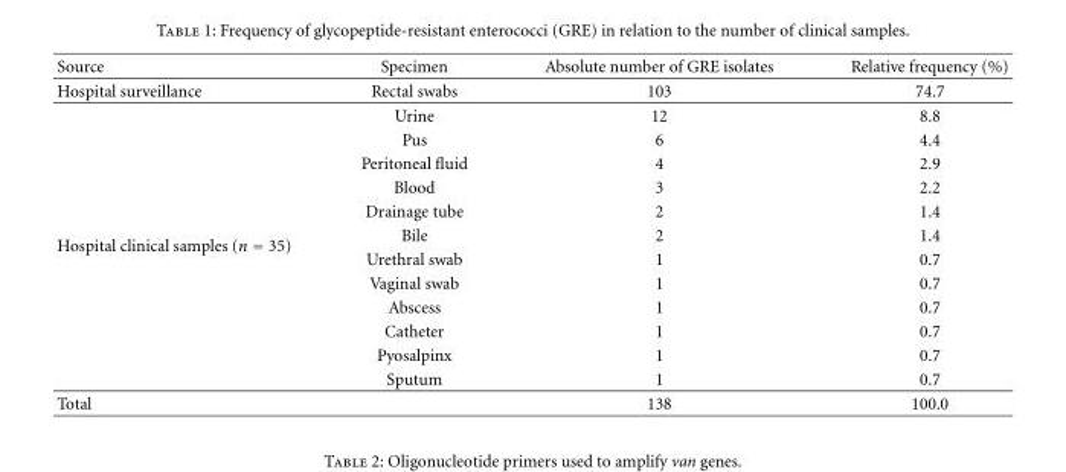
<table><thead><tr><td>Source</td><td>Specimen</td><td>Absolute number of GRE isolates</td><td>Relative frequency (%)</td></tr></thead><tbody><tr><td>Hospital surveillance</td><td>Rectal swabs</td><td>103</td><td>74.7</td></tr><tr><td rowspan="12">Hospital clinical samples (n = 35)</td><td>Urine</td><td>12</td><td>8.8</td></tr><tr><td>Pus</td><td>6</td><td>4.4</td></tr><tr><td>Peritoneal fluid</td><td>4</td><td>2.9</td></tr><tr><td>Blood</td><td>3</td><td>2.2</td></tr><tr><td>Drainage tube</td><td>2</td><td>1.4</td></tr><tr><td>Bile</td><td>2</td><td>1.4</td></tr><tr><td>Urethral swab</td><td>1</td><td>0.7</td></tr><tr><td>Vaginal swab</td><td>1</td><td>0.7</td></tr><tr><td>Abscess</td><td>1</td><td>0.7</td></tr><tr><td>Catheter</td><td>1</td><td>0.7</td></tr><tr><td>Pyosalpinx</td><td>1</td><td>0.7</td></tr><tr><td>Sputum</td><td>1</td><td>0.7</td></tr><tr><td>Total</td><td></td><td>138</td><td>100.0</td></tr></tbody></table>